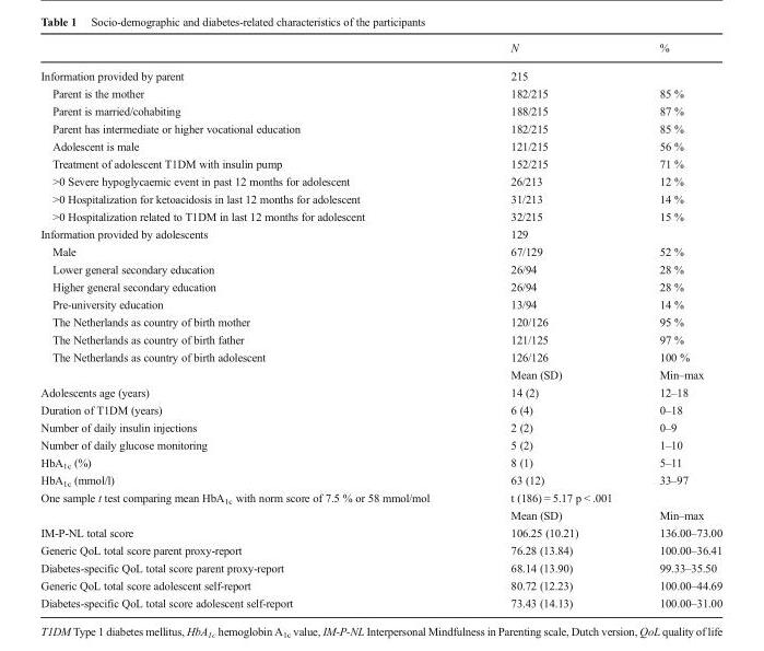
<table><thead><tr><td></td><td>N</td><td>%</td></tr></thead><tbody><tr><td>Information provided by parent</td><td>215</td><td></td></tr><tr><td>Parent is the mother</td><td>182/215</td><td>85 %</td></tr><tr><td>Parent is married/cohabiting</td><td>188/215</td><td>87 %</td></tr><tr><td>Parent has intermediate or higher vocational education</td><td>182/215</td><td>85 %</td></tr><tr><td>Adolescent is male</td><td>121/215</td><td>56 %</td></tr><tr><td>Treatment of adolescent T1DM with insulin pump</td><td>152/215</td><td>71 %</td></tr><tr><td>&gt;0 Severe hypoglycaemic event in past 12 months for adolescent</td><td>26/213</td><td>12 %</td></tr><tr><td>&gt;0 Hospitalization for ketoacidosis in last 12 months for adolescent</td><td>31/213</td><td>14 %</td></tr><tr><td>&gt;0 Hospitalization related to T1DM in last 12 months for adolescent</td><td>32/215</td><td>15 %</td></tr><tr><td>Information provided by adolescents</td><td>129</td><td></td></tr><tr><td>Male</td><td>67/129</td><td>52 %</td></tr><tr><td>Lower general secondary education</td><td>26/94</td><td>28 %</td></tr><tr><td>Higher general secondary education</td><td>26/94</td><td>28 %</td></tr><tr><td>Pre-university education</td><td>13/94</td><td>14 %</td></tr><tr><td>The Netherlands as country of birth mother</td><td>120/126</td><td>95 %</td></tr><tr><td>The Netherlands as country of birth father</td><td>121/125</td><td>97 %</td></tr><tr><td rowspan="2">The Netherlands as country of birth adolescent</td><td>126/126</td><td>100 %</td></tr><tr><td>Mean (SD)</td><td>Min–max</td></tr><tr><td>Adolescents age (years)</td><td>14 (2)</td><td>12–18</td></tr><tr><td>Duration of T1DM (years)</td><td>6 (4)</td><td>0–18</td></tr><tr><td>Number of daily insulin injections</td><td>2 (2)</td><td>0–9</td></tr><tr><td>Number of daily glucose monitoring</td><td>5 (2)</td><td>1–10</td></tr><tr><td>HbA<sub>1c</sub> (%)</td><td>8 (1)</td><td>5–11</td></tr><tr><td>HbA<sub>1c</sub> (mmol/l)</td><td>63 (12)</td><td>33–97</td></tr><tr><td rowspan="2">One sample t test comparing mean HbA<sub>1c</sub> with norm score of 7.5 % or 58 mmol/mol</td><td colspan="2">t (186) = 5.17 p &lt; .001</td></tr><tr><td>Mean (SD)</td><td>Min–max</td></tr><tr><td>IM-P-NL total score</td><td>106.25 (10.21)</td><td>136.00–73.00</td></tr><tr><td>Generic QoL total score parent proxy-report</td><td>76.28 (13.84)</td><td>100.00–36.41</td></tr><tr><td>Diabetes-specific QoL total score parent proxy-report</td><td>68.14 (13.90)</td><td>99.33–35.50</td></tr><tr><td>Generic QoL total score adolescent self-report</td><td>80.72 (12.23)</td><td>100.00–44.69</td></tr><tr><td>Diabetes-specific QoL total score adolescent self-report</td><td>73.43 (14.13)</td><td>100.00–31.00</td></tr></tbody></table>